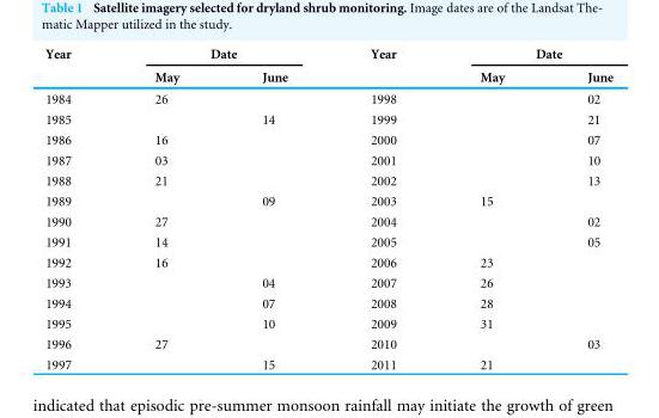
<table><thead><tr><td rowspan="2">Year</td><td colspan="2">Date</td><td rowspan="2">Year</td><td colspan="2">Date</td></tr><tr><td>May</td><td>June</td><td>May</td><td>June</td></tr></thead><tbody><tr><td>1984</td><td>26</td><td></td><td>1998</td><td></td><td>02</td></tr><tr><td>1985</td><td></td><td>14</td><td>1999</td><td></td><td>21</td></tr><tr><td>1986</td><td>16</td><td></td><td>2000</td><td></td><td>07</td></tr><tr><td>1987</td><td>03</td><td></td><td>2001</td><td></td><td>10</td></tr><tr><td>1988</td><td>21</td><td></td><td>2002</td><td></td><td>13</td></tr><tr><td>1989</td><td></td><td>09</td><td>2003</td><td>15</td><td></td></tr><tr><td>1990</td><td>27</td><td></td><td>2004</td><td></td><td>02</td></tr><tr><td>1991</td><td>14</td><td></td><td>2005</td><td></td><td>05</td></tr><tr><td>1992</td><td>16</td><td></td><td>2006</td><td>23</td><td></td></tr><tr><td>1993</td><td></td><td>04</td><td>2007</td><td>26</td><td></td></tr><tr><td>1994</td><td></td><td>07</td><td>2008</td><td>28</td><td></td></tr><tr><td>1995</td><td></td><td>10</td><td>2009</td><td>31</td><td></td></tr><tr><td>1996</td><td>27</td><td></td><td>2010</td><td></td><td>03</td></tr><tr><td>1997</td><td></td><td>15</td><td>2011</td><td>21</td><td></td></tr></tbody></table>